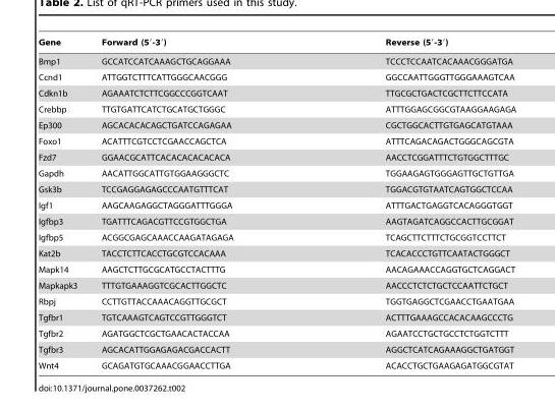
<table><thead><tr><td>Gene</td><td>Forward (5′-3′)</td><td>Reverse (5′-3′)</td></tr></thead><tbody><tr><td>Bmp1</td><td>GCCATCCATCAAAGCTGCAGGAAA</td><td>TCCCTCCAATCACAAACGGGATGA</td></tr><tr><td>Ccnd1</td><td>ATTGGTCTTTCATTGGGCAACGGG</td><td>GGCCAATTGGGTTGGGAAAGTCAA</td></tr><tr><td>Cdkn1b</td><td>AGAAATCTCTTCGGCCCGGTCAAT</td><td>TTGCGCTGACTCGCTTCTTCCATA</td></tr><tr><td>Crebbp</td><td>TTGTGATTCATCTGCATGCTGGGC</td><td>ATTTGGAGCGGCGTAAGGAAGAGA</td></tr><tr><td>Ep300</td><td>AGCACACACAGCTGATCCAGAGAA</td><td>CGCTGGCACTTGTGAGCATGTAAA</td></tr><tr><td>Foxo1</td><td>ACATTTCGTCCTCGAACCAGCTCA</td><td>ATTTCAGACAGACTGGGCAGCGTA</td></tr><tr><td>Fzd7</td><td>GGAACGCATTCACACACACACACA</td><td>AACCTCGGATTTCTGTGGCTTTGC</td></tr><tr><td>Gapdh</td><td>AACATTGGCATTGTGGAAGGGCTC</td><td>TGGAAGAGTGGGAGTTGCTGTTGA</td></tr><tr><td>Gsk3b</td><td>TCCGAGGAGAGCCCAATGTTTCAT</td><td>TGGACGTGTAATCAGTGGCTCCAA</td></tr><tr><td>Igf1</td><td>AAGCAAGAGGCTAGGGATTTGGGA</td><td>ATTTGACTGAGGTCACAGGGTGGT</td></tr><tr><td>Igfbp3</td><td>TGATTTCAGACGTTCCGTGGCTGA</td><td>AAGTAGATCAGGCCACTTGCGGAT</td></tr><tr><td>Igfbp5</td><td>ACGGCGAGCAAACCAAGATAGAGA</td><td>TCAGCTTCTTTCTGCGGTCCTTCT</td></tr><tr><td>Kat2b</td><td>TACCTCTTCACCTGCGTCCACAAA</td><td>TCACACCCTGTTCAATACTGGGCT</td></tr><tr><td>Mapk14</td><td>AAGCTCTTGCGCATGCCTACTTTG</td><td>AACAGAAACCAGGTGCTCAGGACT</td></tr><tr><td>Mapkapk3</td><td>TTTGTGAAAGGTCGCACTTGGCTC</td><td>AACCCTCTCTGCTCCAATTCTGCT</td></tr><tr><td>Rbpj</td><td>CCTTGTTACCAAACAGGTTGCGCT</td><td>TGGTGAGGCTCGAACCTGAATGAA</td></tr><tr><td>Tgfbr1</td><td>TGTCAAAGTCAGTCCGTTGGGTCT</td><td>ACTTTGAAAGCCACACAAGCCCTG</td></tr><tr><td>Tgfbr2</td><td>AGATGGCTCGCTGAACACTACCAA</td><td>AGAATCCTGCTGCCTCTGGTCTTT</td></tr><tr><td>Tgfbr3</td><td>AGCACATTGGAGAGACGACCACTT</td><td>AGGCTCATCAGAAAGGCTGATGGT</td></tr><tr><td>Wnt4</td><td>GCAGATGTGCAAACGGAACCTTGA</td><td>ACACCTGCTGAAGAGATGGCGTAT</td></tr></tbody></table>